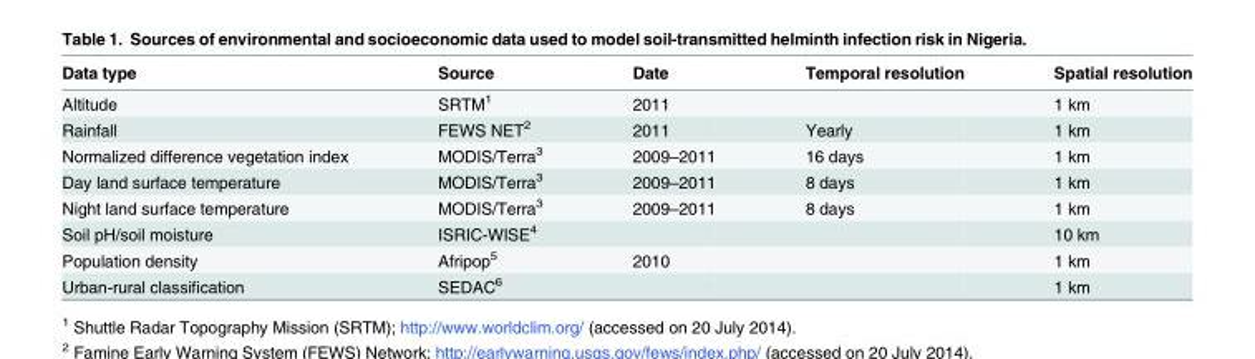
<table><thead><tr><td>Data type</td><td>Source</td><td>Date</td><td>Temporal resolution</td><td>Spatial resolution</td></tr></thead><tbody><tr><td>Altitude</td><td>SRTM<sup>1</sup></td><td>2011</td><td></td><td>1 km</td></tr><tr><td>Rainfall</td><td>FEWS NET<sup>2</sup></td><td>2011</td><td>Yearly</td><td>1 km</td></tr><tr><td>Normalized difference vegetation index</td><td>MODIS/Terra<sup>3</sup></td><td>2009–2011</td><td>16 days</td><td>1 km</td></tr><tr><td>Day land surface temperature</td><td>MODIS/Terra<sup>3</sup></td><td>2009–2011</td><td>8 days</td><td>1 km</td></tr><tr><td>Night land surface temperature</td><td>MODIS/Terra<sup>3</sup></td><td>2009–2011</td><td>8 days</td><td>1 km</td></tr><tr><td>Soil pH/soil moisture</td><td>ISRIC-WISE<sup>4</sup></td><td></td><td></td><td>10 km</td></tr><tr><td>Population density</td><td>Afripop<sup>5</sup></td><td>2010</td><td></td><td>1 km</td></tr><tr><td>Urban-rural classification</td><td>SEDAC<sup>6</sup></td><td></td><td></td><td>1 km</td></tr></tbody></table>